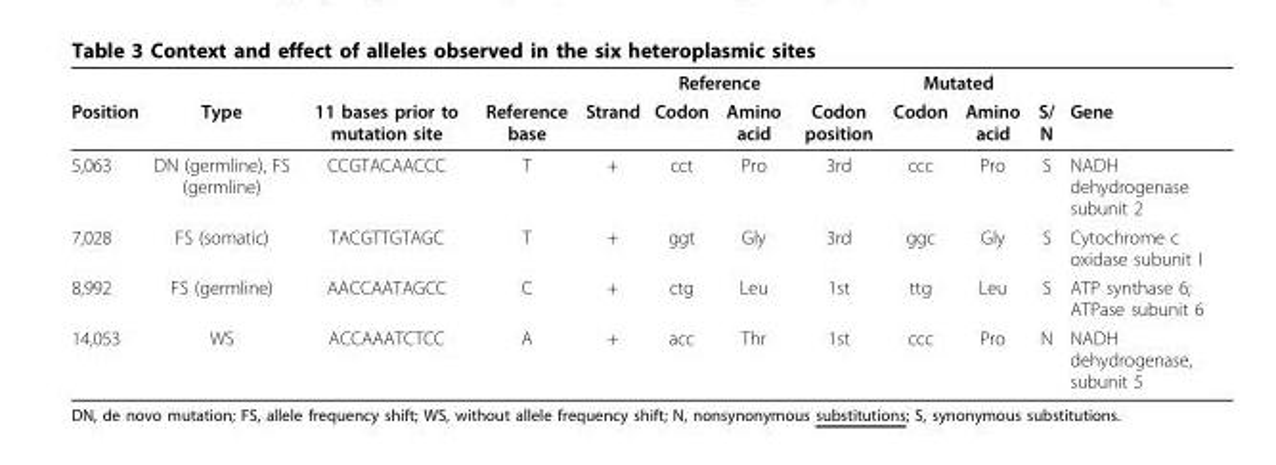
<table><thead><tr><td rowspan="2">Position</td><td rowspan="2">Type</td><td rowspan="2">11 bases prior to mutation site</td><td rowspan="2">Reference base</td><td rowspan="2">Strand</td><td colspan="2">Reference</td><td rowspan="2">Codon position</td><td colspan="2">Mutated</td><td rowspan="2">S/ N</td><td rowspan="2">Gene</td></tr><tr><td>Codon</td><td>Amino acid</td><td>Codon</td><td>Amino acid</td></tr></thead><tbody><tr><td>5,063</td><td>DN (germline), FS (germline)</td><td>CCGTACAACCC</td><td>T</td><td>+</td><td>cct</td><td>Pro</td><td>3rd</td><td>ccc</td><td>Pro</td><td>S</td><td>NADH dehydrogenase subunit 2</td></tr><tr><td>7,028</td><td>FS (somatic)</td><td>TACGTTGTAGC</td><td>T</td><td>+</td><td>ggt</td><td>Gly</td><td>3rd</td><td>ggc</td><td>Gly</td><td>S</td><td>Cytochrome c oxidase subunit I</td></tr><tr><td>8,992</td><td>FS (germline)</td><td>AACCAATAGCC</td><td>C</td><td>+</td><td>ctg</td><td>Leu</td><td>1st</td><td>ttg</td><td>Leu</td><td>S</td><td>ATP synthase 6; ATPase subunit 6</td></tr><tr><td>14,053</td><td>WS</td><td>ACCAAATCTCC</td><td>A</td><td>+</td><td>acc</td><td>Thr</td><td>1st</td><td>ccc</td><td>Pro</td><td>N</td><td>NADH dehydrogenase, subunit 5</td></tr></tbody></table>